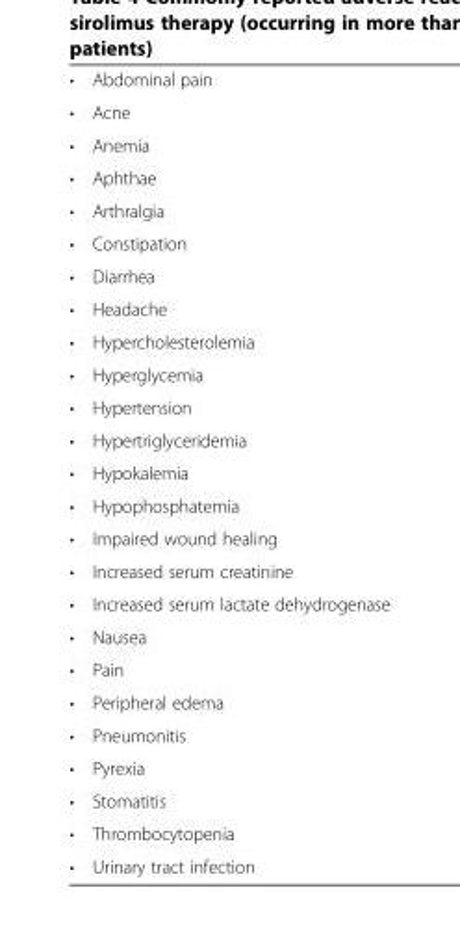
<table><tbody><tr><td>•</td><td>Abdominal pain</td></tr><tr><td>•</td><td>Acne</td></tr><tr><td>•</td><td>Anemia</td></tr><tr><td>•</td><td>Aphthae</td></tr><tr><td>•</td><td>Arthralgia</td></tr><tr><td>•</td><td>Constipation</td></tr><tr><td>•</td><td>Diarrhea</td></tr><tr><td>•</td><td>Headache</td></tr><tr><td>•</td><td>Hypercholesterolemia</td></tr><tr><td>•</td><td>Hyperglycemia</td></tr><tr><td>•</td><td>Hypertension</td></tr><tr><td>•</td><td>Hypertriglyceridemia</td></tr><tr><td>•</td><td>Hypokalemia</td></tr><tr><td>•</td><td>Hypophosphatemia</td></tr><tr><td>•</td><td>Impaired wound healing</td></tr><tr><td>•</td><td>Increased serum creatinine</td></tr><tr><td>•</td><td>Increased serum lactate dehydrogenase</td></tr><tr><td>•</td><td>Nausea</td></tr><tr><td>•</td><td>Pain</td></tr><tr><td>•</td><td>Peripheral edema</td></tr><tr><td>•</td><td>Pneumonitis</td></tr><tr><td>•</td><td>Pyrexia</td></tr><tr><td>•</td><td>Stomatitis</td></tr><tr><td>•</td><td>Thrombocytopenia</td></tr><tr><td>•</td><td>Urinary tract infection</td></tr></tbody></table>